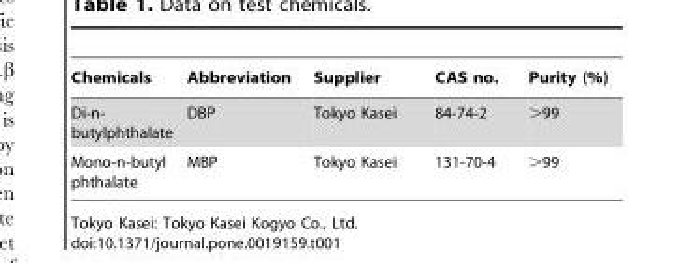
<table><thead><tr><td>Chemicals</td><td>Abbreviation</td><td>Supplier</td><td>CAS no.</td><td>Purity (%)</td></tr></thead><tbody><tr><td>Di-n- butylphthalate</td><td>DBP</td><td>Tokyo Kasei</td><td>84-74-2</td><td>&gt;99</td></tr><tr><td>Mono-n-butyl phthalate</td><td>MBP</td><td>Tokyo Kasei</td><td>131-70-4</td><td>&gt;99</td></tr></tbody></table>